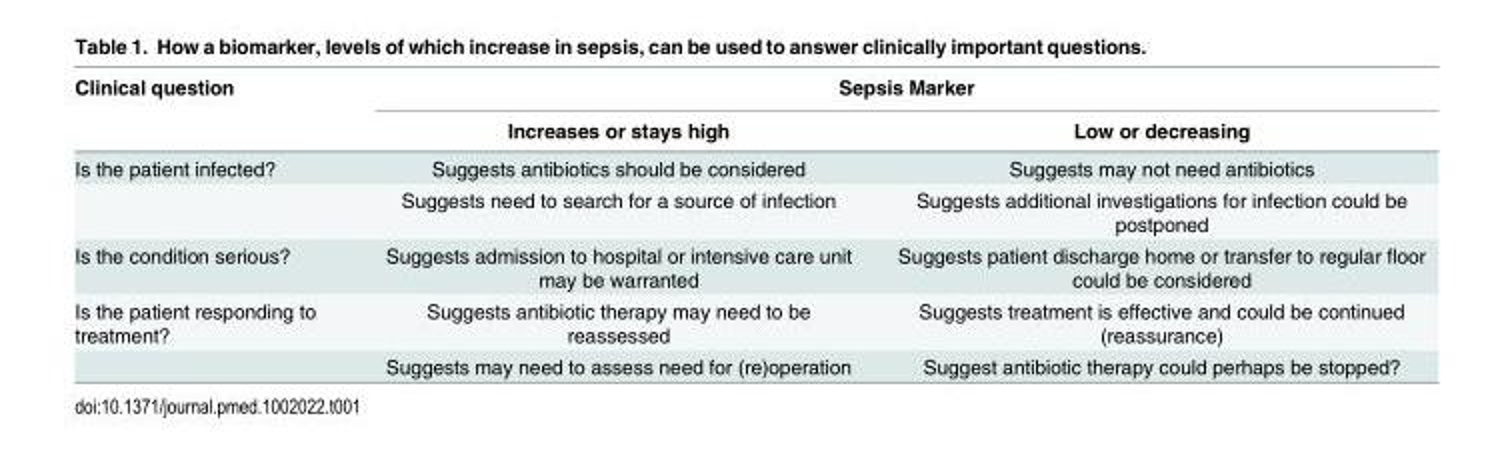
<table><thead><tr><td rowspan="2">Clinical question</td><td colspan="2">Sepsis Marker</td></tr><tr><td>Increases or stays high</td><td>Low or decreasing</td></tr></thead><tbody><tr><td rowspan="2">Is the patient infected?</td><td>Suggests antibiotics should be considered</td><td>Suggests may not need antibiotics</td></tr><tr><td>Suggests need to search for a source of infection</td><td>Suggests additional investigations for infection could be postponed</td></tr><tr><td>Is the condition serious?</td><td>Suggests admission to hospital or intensive care unit may be warranted</td><td>Suggests patient discharge home or transfer to regular floor could be considered</td></tr><tr><td rowspan="2">Is the patient responding to treatment?</td><td>Suggests antibiotic therapy may need to be reassessed</td><td>Suggests treatment is effective and could be continued (reassurance)</td></tr><tr><td>Suggests may need to assess need for (re)operation</td><td>Suggest antibiotic therapy could perhaps be stopped?</td></tr></tbody></table>